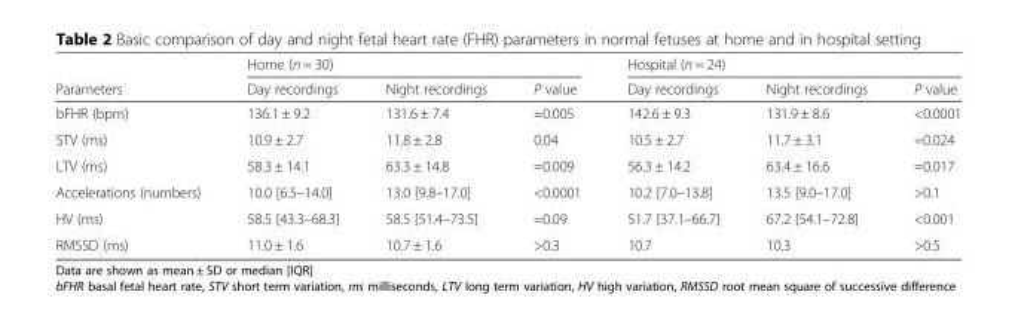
<table><thead><tr><td rowspan="2">Parameters</td><td colspan="3">Home (n = 30)</td><td colspan="3">Hospital (n = 24)</td></tr><tr><td>Day recordings</td><td>Night recordings</td><td>P value</td><td>Day recordings</td><td>Night recordings</td><td>P value</td></tr></thead><tbody><tr><td>bFHR (bpm)</td><td>136.1 ± 9.2</td><td>131.6 ± 7.4</td><td>=0.005</td><td>142.6 ± 9.3</td><td>131.9 ± 8.6</td><td>&lt;0.0001</td></tr><tr><td>STV (ms)</td><td>10.9 ± 2.7</td><td>11.8 ± 2.8</td><td>0.04</td><td>10.5 ± 2.7</td><td>11.7 ± 3.1</td><td>=0.024</td></tr><tr><td>LTV (ms)</td><td>58.3 ± 14.1</td><td>63.3 ± 14.8</td><td>=0.009</td><td>56.3 ± 14.2</td><td>63.4 ± 16.6</td><td>=0.017</td></tr><tr><td>Accelerations (numbers)</td><td>10.0 [6.5–14.0]</td><td>13.0 [9.8–17.0]</td><td>&lt;0.0001</td><td>10.2 [7.0–13.8]</td><td>13.5 [9.0–17.0]</td><td>&gt;0.1</td></tr><tr><td>HV (ms)</td><td>58.5 [43.3–68.3]</td><td>58.5 [51.4–73.5]</td><td>=0.09</td><td>51.7 [37.1–66.7]</td><td>67.2 [54.1–72.8]</td><td>&lt;0.001</td></tr><tr><td>RMSSD (ms)</td><td>11.0 ± 1.6</td><td>10.7 ± 1.6</td><td>&gt;0.3</td><td>10.7</td><td>10.3</td><td>&gt;0.5</td></tr></tbody></table>